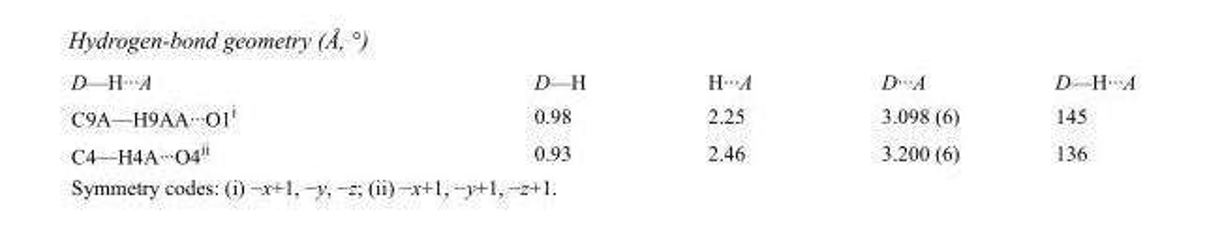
<table><tbody><tr><td>D—H···A</td><td>D—H</td><td>H···A</td><td>D···A</td><td>D—H···A</td></tr><tr><td>C9A—H9AA···O1<sup>i</sup></td><td>0.98</td><td>2.25</td><td>3.098 (6)</td><td>145</td></tr><tr><td>C4—H4A···O4<sup>ii</sup></td><td>0.93</td><td>2.46</td><td>3.200 (6)</td><td>136</td></tr></tbody></table>